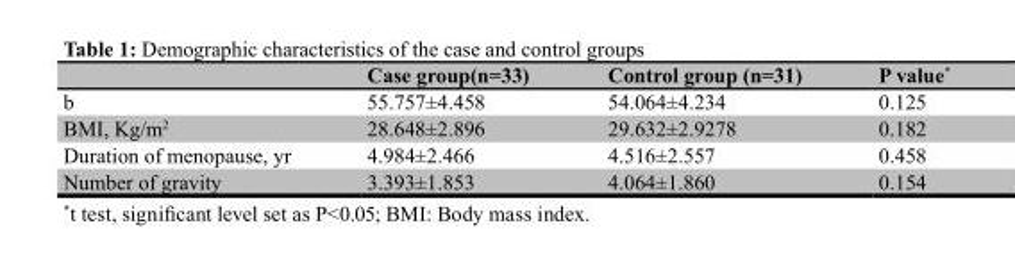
<table><thead><tr><td></td><td>Case group(n=33)</td><td>Control group (n=31)</td><td>P value*</td></tr></thead><tbody><tr><td>b</td><td>55.757±4.458</td><td>54.064±4.234</td><td>0.125</td></tr><tr><td>BMI, Kg/m<sup>2</sup></td><td>28.648±2.896</td><td>29.632±2.9278</td><td>0.182</td></tr><tr><td>Duration of menopause, yr</td><td>4.984±2.466</td><td>4.516±2.557</td><td>0.458</td></tr><tr><td>Number of gravity</td><td>3.393±1.853</td><td>4.064±1.860</td><td>0.154</td></tr></tbody></table>